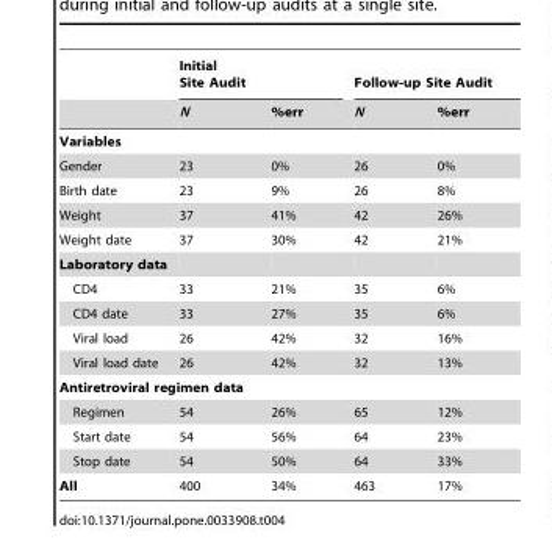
<table><thead><tr><td rowspan="2"></td><td colspan="2">Initial Site Audit</td><td colspan="2">Follow-up Site Audit</td></tr><tr><td>N</td><td>%err</td><td>N</td><td>%err</td></tr></thead><tbody><tr><td colspan="5">Variables</td></tr><tr><td>Gender</td><td>23</td><td>0%</td><td>26</td><td>0%</td></tr><tr><td>Birth date</td><td>23</td><td>9%</td><td>26</td><td>8%</td></tr><tr><td>Weight</td><td>37</td><td>41%</td><td>42</td><td>26%</td></tr><tr><td>Weight date</td><td>37</td><td>30%</td><td>42</td><td>21%</td></tr><tr><td colspan="5">Laboratory data</td></tr><tr><td>CD4</td><td>33</td><td>21%</td><td>35</td><td>6%</td></tr><tr><td>CD4 date</td><td>33</td><td>27%</td><td>35</td><td>6%</td></tr><tr><td>Viral load</td><td>26</td><td>42%</td><td>32</td><td>16%</td></tr><tr><td>Viral load date</td><td>26</td><td>42%</td><td>32</td><td>13%</td></tr><tr><td colspan="5">Antiretroviral regimen data</td></tr><tr><td>Regimen</td><td>54</td><td>26%</td><td>65</td><td>12%</td></tr><tr><td>Start date</td><td>54</td><td>56%</td><td>64</td><td>23%</td></tr><tr><td>Stop date</td><td>54</td><td>50%</td><td>64</td><td>33%</td></tr><tr><td>All</td><td>400</td><td>34%</td><td>463</td><td>17%</td></tr></tbody></table>